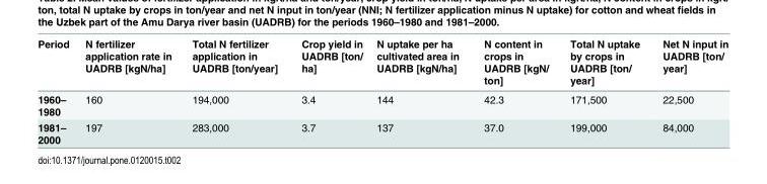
<table><thead><tr><td>Period</td><td>N fertilizer application rate in UADRB [kgN/ha]</td><td>Total N fertilizer application in UADRB [ton/year]</td><td>Crop yield in UADRB [ton/ ha]</td><td>N uptake per ha cultivated area in UADRB [kgN/ha]</td><td>N content in crops in UADRB [kgN/ ton]</td><td>Total N uptake by crops in UADRB [ton/ year]</td><td>Net N input in UADRB [ton/ year]</td></tr></thead><tbody><tr><td>1960– 1980</td><td>160</td><td>194,000</td><td>3.4</td><td>144</td><td>42.3</td><td>171,500</td><td>22,500</td></tr><tr><td>1981– 2000</td><td>197</td><td>283,000</td><td>3.7</td><td>137</td><td>37.0</td><td>199,000</td><td>84,000</td></tr></tbody></table>